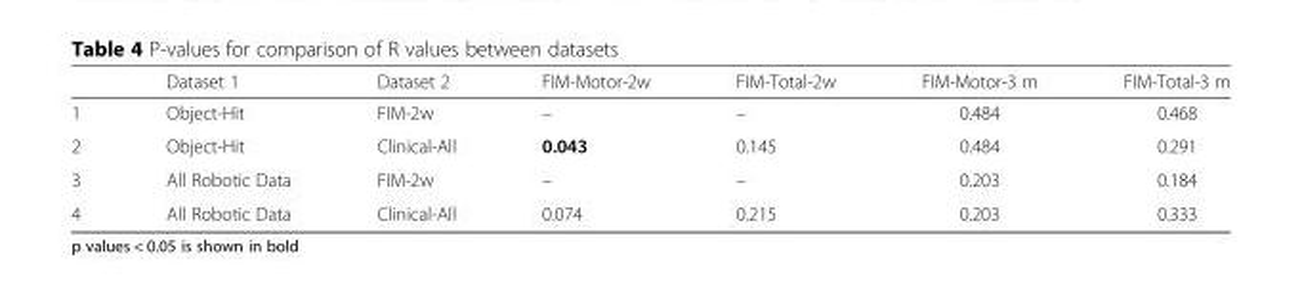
<table><thead><tr><td></td><td>Dataset 1</td><td>Dataset 2</td><td>FIM-Motor-2w</td><td>FIM-Total-2w</td><td>FIM-Motor-3 m</td><td>FIM-Total-3 m</td></tr></thead><tbody><tr><td>1</td><td>Object-Hit</td><td>FIM-2w</td><td>–</td><td>–</td><td>0.484</td><td>0.468</td></tr><tr><td>2</td><td>Object-Hit</td><td>Clinical-All</td><td>0.043</td><td>0.145</td><td>0.484</td><td>0.291</td></tr><tr><td>3</td><td>All Robotic Data</td><td>FIM-2w</td><td>–</td><td>–</td><td>0.203</td><td>0.184</td></tr><tr><td>4</td><td>All Robotic Data</td><td>Clinical-All</td><td>0.074</td><td>0.215</td><td>0.203</td><td>0.333</td></tr></tbody></table>